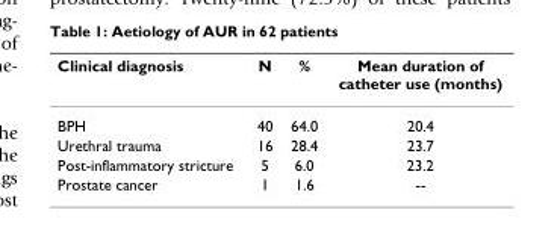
<table><thead><tr><td>Clinical diagnosis</td><td>N</td><td>%</td><td>Mean duration of catheter use (months)</td></tr></thead><tbody><tr><td>BPH</td><td>40</td><td>64.0</td><td>20.4</td></tr><tr><td>Urethral trauma</td><td>16</td><td>28.4</td><td>23.7</td></tr><tr><td>Post-inflammatory stricture</td><td>5</td><td>6.0</td><td>23.2</td></tr><tr><td>Prostate cancer</td><td>1</td><td>1.6</td><td>--</td></tr></tbody></table>